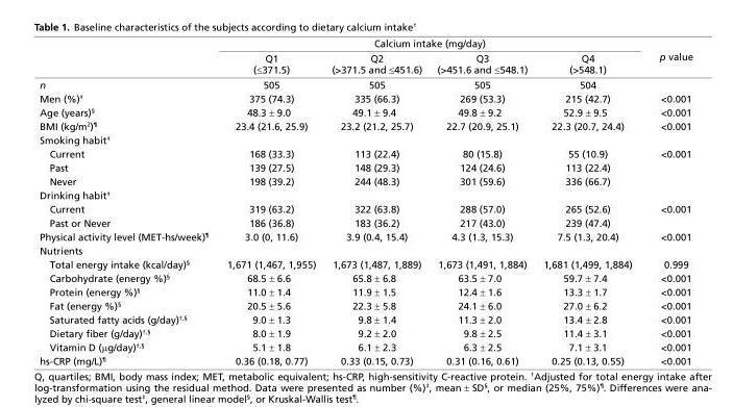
<table><thead><tr><td rowspan="2"></td><td colspan="4">Calcium intake (mg/day)</td><td rowspan="2">p value</td></tr><tr><td>Q1 (≤371.5)</td><td>Q2 (&gt;371.5 and ≤451.6)</td><td>Q3 (&gt;451.6 and ≤548.1)</td><td>Q4 (&gt;548.1)</td></tr></thead><tbody><tr><td>n</td><td>505</td><td>505</td><td>505</td><td>504</td><td></td></tr><tr><td>Men (%)<sup>‡</sup></td><td>375 (74.3)</td><td>335 (66.3)</td><td>269 (53.3)</td><td>215 (42.7)</td><td>&lt;0.001</td></tr><tr><td>Age (years)<sup>§</sup></td><td>48.3 ± 9.0</td><td>49.1 ± 9.4</td><td>49.8 ± 9.2</td><td>52.9 ± 9.5</td><td>&lt;0.001</td></tr><tr><td>BMI (kg/m<sup>2</sup>)<sup>¶</sup></td><td>23.4 (21.6, 25.9)</td><td>23.2 (21.2, 25.7)</td><td>22.7 (20.9, 25.1)</td><td>22.3 (20.7, 24.4)</td><td>&lt;0.001</td></tr><tr><td colspan="6">Smoking habit<sup>‡</sup></td></tr><tr><td>Current</td><td>168 (33.3)</td><td>113 (22.4)</td><td>80 (15.8)</td><td>55 (10.9)</td><td>&lt;0.001</td></tr><tr><td>Past</td><td>139 (27.5)</td><td>148 (29.3)</td><td>124 (24.6)</td><td>113 (22.4)</td><td></td></tr><tr><td>Never</td><td>198 (39.2)</td><td>244 (48.3)</td><td>301 (59.6)</td><td>336 (66.7)</td><td></td></tr><tr><td colspan="6">Drinking habit<sup>‡</sup></td></tr><tr><td>Current</td><td>319 (63.2)</td><td>322 (63.8)</td><td>288 (57.0)</td><td>265 (52.6)</td><td>&lt;0.001</td></tr><tr><td>Past or Never</td><td>186 (36.8)</td><td>183 (36.2)</td><td>217 (43.0)</td><td>239 (47.4)</td><td></td></tr><tr><td>Physical activity level (MET-hs/week)<sup>¶</sup></td><td>3.0 (0, 11.6)</td><td>3.9 (0.4, 15.4)</td><td>4.3 (1.3, 15.3)</td><td>7.5 (1.3, 20.4)</td><td>&lt;0.001</td></tr><tr><td colspan="6">Nutrients</td></tr><tr><td>Total energy intake (kcal/day)<sup>§</sup></td><td>1,671 (1,467, 1,955)</td><td>1,673 (1,487, 1,889)</td><td>1,673 (1,491, 1,884)</td><td>1,681 (1,499, 1,884)</td><td>0.999</td></tr><tr><td>Carbohydrate (energy %)<sup>§</sup></td><td>68.5 ± 6.6</td><td>65.8 ± 6.8</td><td>63.5 ± 7.0</td><td>59.7 ± 7.4</td><td>&lt;0.001</td></tr><tr><td>Protein (energy %)<sup>§</sup></td><td>11.0 ± 1.4</td><td>11.9 ± 1.5</td><td>12.4 ± 1.6</td><td>13.3 ± 1.7</td><td>&lt;0.001</td></tr><tr><td>Fat (energy %)<sup>§</sup></td><td>20.5 ± 5.6</td><td>22.3 ± 5.8</td><td>24.1 ± 6.0</td><td>27.0 ± 6.2</td><td>&lt;0.001</td></tr><tr><td>Saturated fatty acids (g/day)<sup>†,§</sup></td><td>9.0 ± 1.3</td><td>9.8 ± 1.4</td><td>11.3 ± 2.0</td><td>13.4 ± 2.8</td><td>&lt;0.001</td></tr><tr><td>Dietary fiber (g/day)<sup>†,§</sup></td><td>8.0 ± 1.9</td><td>9.2 ± 2.0</td><td>9.8 ± 2.5</td><td>11.4 ± 3.1</td><td>&lt;0.001</td></tr><tr><td>Vitamin D (μg/day)<sup>†,§</sup></td><td>5.1 ± 1.8</td><td>6.1 ± 2.3</td><td>6.3 ± 2.5</td><td>7.1 ± 3.1</td><td>&lt;0.001</td></tr><tr><td>hs-CRP (mg/L)<sup>¶</sup></td><td>0.36 (0.18, 0.77)</td><td>0.33 (0.15, 0.73)</td><td>0.31 (0.16, 0.61)</td><td>0.25 (0.13, 0.55)</td><td>&lt;0.001</td></tr></tbody></table>